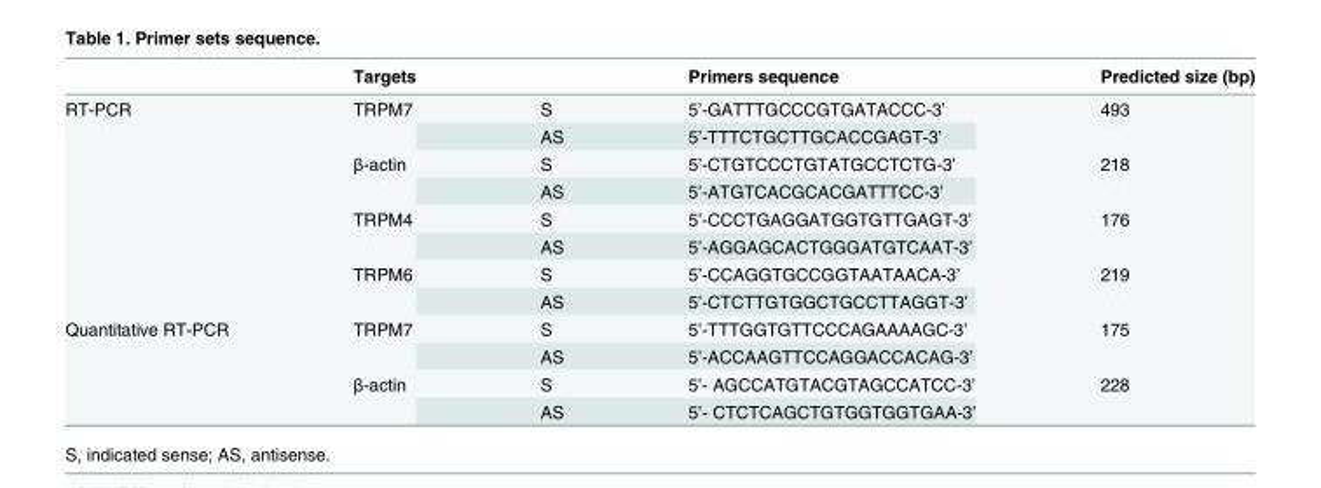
<table><thead><tr><td></td><td>Targets</td><td></td><td>Primers sequence</td><td>Predicted size (bp)</td></tr></thead><tbody><tr><td rowspan="8">RT-PCR</td><td rowspan="2">TRPM7</td><td>S</td><td>5’-GATTTGCCCGTGATACCC-3’</td><td rowspan="2">493</td></tr><tr><td>AS</td><td>5’-TTTCTGCTTGCACCGAGT-3’</td></tr><tr><td rowspan="2">β-actin</td><td>S</td><td>5’-CTGTCCCTGTATGCCTCTG-3’</td><td rowspan="2">218</td></tr><tr><td>AS</td><td>5’-ATGTCACGCACGATTTCC-3’</td></tr><tr><td rowspan="2">TRPM4</td><td>S</td><td>5’-CCCTGAGGATGGTGTTGAGT-3’</td><td rowspan="2">176</td></tr><tr><td>AS</td><td>5’-AGGAGCACTGGGATGTCAAT-3’</td></tr><tr><td rowspan="2">TRPM6</td><td>S</td><td>5’-CCAGGTGCCGGTAATAACA-3’</td><td rowspan="2">219</td></tr><tr><td>AS</td><td>5’-CTCTTGTGGCTGCCTTAGGT-3’</td></tr><tr><td rowspan="4">Quantitative RT-PCR</td><td rowspan="2">TRPM7</td><td>S</td><td>5’-TTTGGTGTTCCCAGAAAAGC-3’</td><td rowspan="2">175</td></tr><tr><td>AS</td><td>5’-ACCAAGTTCCAGGACCACAG-3’</td></tr><tr><td rowspan="2">β-actin</td><td>S</td><td>5’- AGCCATGTACGTAGCCATCC-3’</td><td rowspan="2">228</td></tr><tr><td>AS</td><td>5’- CTCTCAGCTGTGGTGGTGAA-3’</td></tr></tbody></table>